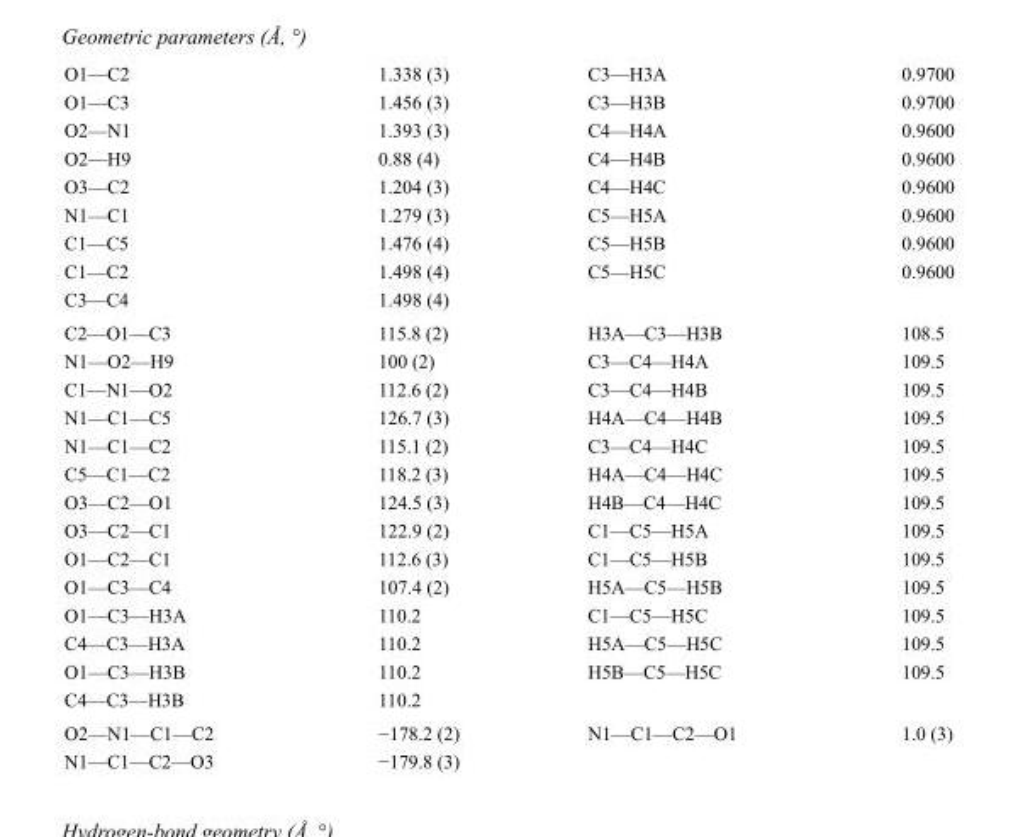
<table><tbody><tr><td>O1—C2</td><td>1.338 (3)</td><td>C3—H3A</td><td>0.9700</td></tr><tr><td>O1—C3</td><td>1.456 (3)</td><td>C3—H3B</td><td>0.9700</td></tr><tr><td>O2—N1</td><td>1.393 (3)</td><td>C4—H4A</td><td>0.9600</td></tr><tr><td>O2—H9</td><td>0.88 (4)</td><td>C4—H4B</td><td>0.9600</td></tr><tr><td>O3—C2</td><td>1.204 (3)</td><td>C4—H4C</td><td>0.9600</td></tr><tr><td>N1—C1</td><td>1.279 (3)</td><td>C5—H5A</td><td>0.9600</td></tr><tr><td>C1—C5</td><td>1.476 (4)</td><td>C5—H5B</td><td>0.9600</td></tr><tr><td>C1—C2</td><td>1.498 (4)</td><td>C5—H5C</td><td>0.9600</td></tr><tr><td>C3—C4</td><td>1.498 (4)</td><td></td><td></td></tr><tr><td>C2—O1—C3</td><td>115.8 (2)</td><td>H3A—C3—H3B</td><td>108.5</td></tr><tr><td>N1—O2—H9</td><td>100 (2)</td><td>C3—C4—H4A</td><td>109.5</td></tr><tr><td>C1—N1—O2</td><td>112.6 (2)</td><td>C3—C4—H4B</td><td>109.5</td></tr><tr><td>N1—C1—C5</td><td>126.7 (3)</td><td>H4A—C4—H4B</td><td>109.5</td></tr><tr><td>N1—C1—C2</td><td>115.1 (2)</td><td>C3—C4—H4C</td><td>109.5</td></tr><tr><td>C5—C1—C2</td><td>118.2 (3)</td><td>H4A—C4—H4C</td><td>109.5</td></tr><tr><td>O3—C2—O1</td><td>124.5 (3)</td><td>H4B—C4—H4C</td><td>109.5</td></tr><tr><td>O3—C2—C1</td><td>122.9 (2)</td><td>C1—C5—H5A</td><td>109.5</td></tr><tr><td>O1—C2—C1</td><td>112.6 (3)</td><td>C1—C5—H5B</td><td>109.5</td></tr><tr><td>O1—C3—C4</td><td>107.4 (2)</td><td>H5A—C5—H5B</td><td>109.5</td></tr><tr><td>O1—C3—H3A</td><td>110.2</td><td>C1—C5—H5C</td><td>109.5</td></tr><tr><td>C4—C3—H3A</td><td>110.2</td><td>H5A—C5—H5C</td><td>109.5</td></tr><tr><td>O1—C3—H3B</td><td>110.2</td><td>H5B—C5—H5C</td><td>109.5</td></tr><tr><td>C4—C3—H3B</td><td>110.2</td><td></td><td></td></tr><tr><td>O2—N1—C1—C2</td><td>−178.2 (2)</td><td>N1—C1—C2—O1</td><td>1.0 (3)</td></tr><tr><td>N1—C1—C2—O3</td><td>−179.8 (3)</td><td></td><td></td></tr></tbody></table>